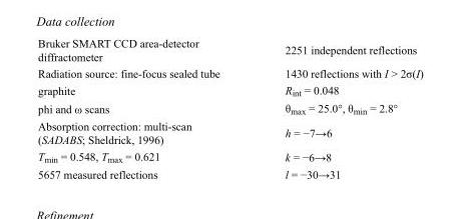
<table><tbody><tr><td>Bruker SMART CCD area-detector diffractometer</td><td>2251 independent reflections</td></tr><tr><td>Radiation source: fine-focus sealed tube</td><td>1430 reflections with I &gt; 2σ(I)</td></tr><tr><td>graphite</td><td>R<sub>int</sub> = 0.048</td></tr><tr><td>phi and ω scans</td><td>θ<sub>max</sub> = 25.0°, θ<sub>min</sub> = 2.8°</td></tr><tr><td>Absorption correction: multi-scan (SADABS; Sheldrick, 1996)</td><td>h = −7→6</td></tr><tr><td>T<sub>min</sub> = 0.548, T<sub>max</sub> = 0.621</td><td>k = −6→8</td></tr><tr><td>5657 measured reflections</td><td>l = −30→31</td></tr></tbody></table>